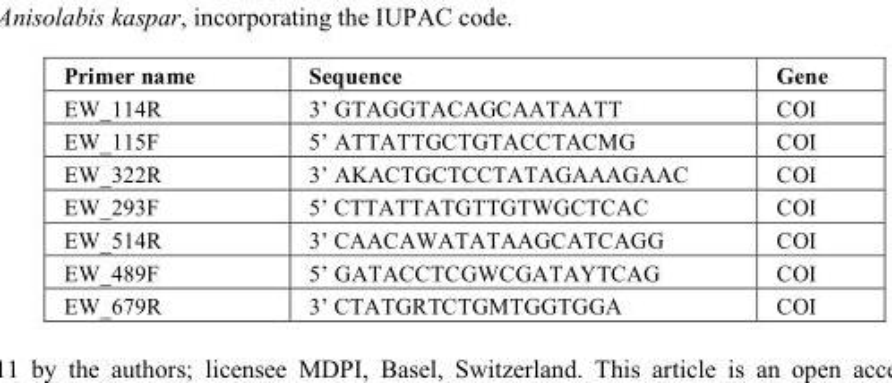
<table><thead><tr><td>Primer name</td><td>Sequence</td><td>Gene</td></tr></thead><tbody><tr><td>EW_114R</td><td>3’ GTAGGTACAGCAATAATT</td><td>COI</td></tr><tr><td>EW_115F</td><td>5’ ATTATTGCTGTACCTACMG</td><td>COI</td></tr><tr><td>EW_322R</td><td>3’ AKACTGCTCCTATAGAAAGAAC</td><td>COI</td></tr><tr><td>EW_293F</td><td>5’ CTTATTATGTTGTWGCTCAC</td><td>COI</td></tr><tr><td>EW_514R</td><td>3’ CAACAWATATAAGCATCAGG</td><td>COI</td></tr><tr><td>EW_489F</td><td>5’ GATACCTCGWCGATAYTCAG</td><td>COI</td></tr><tr><td>EW_679R</td><td>3’ CTATGRTCTGMTGGTGGA</td><td>COI</td></tr></tbody></table>